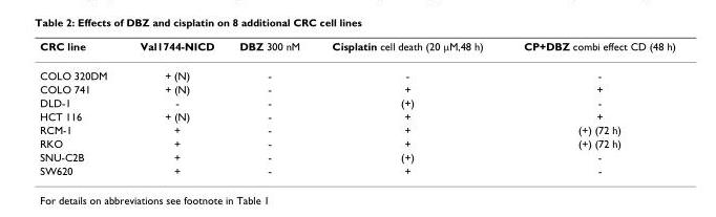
<table><thead><tr><td>CRC line</td><td>Val1744-NICD</td><td>DBZ 300 nM</td><td>Cisplatin cell death (20 μM,48 h)</td><td>CP+DBZ combi effect CD (48 h)</td></tr></thead><tbody><tr><td>COLO 320DM</td><td>+ (N)</td><td>-</td><td>-</td><td>-</td></tr><tr><td>COLO 741</td><td>+ (N)</td><td>-</td><td>+</td><td>+</td></tr><tr><td>DLD-1</td><td>-</td><td>-</td><td>(+)</td><td>-</td></tr><tr><td>HCT 116</td><td>+ (N)</td><td>-</td><td>+</td><td>+</td></tr><tr><td>RCM-1</td><td>+</td><td>-</td><td>+</td><td>(+) (72 h)</td></tr><tr><td>RKO</td><td>+</td><td>-</td><td>+</td><td>(+) (72 h)</td></tr><tr><td>SNU-C2B</td><td>+</td><td>-</td><td>(+)</td><td>-</td></tr><tr><td>SW620</td><td>+</td><td>-</td><td>+</td><td>-</td></tr></tbody></table>